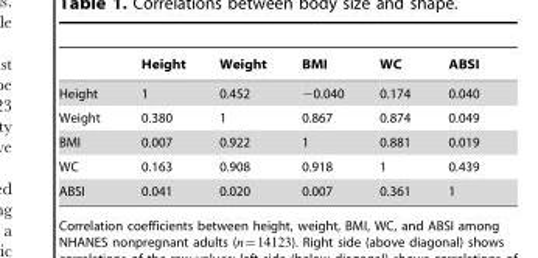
<table><thead><tr><td></td><td>Height</td><td>Weight</td><td>BMI</td><td>WC</td><td>ABSI</td></tr></thead><tbody><tr><td>Height</td><td>1</td><td>0.452</td><td>−0.040</td><td>0.174</td><td>0.040</td></tr><tr><td>Weight</td><td>0.380</td><td>1</td><td>0.867</td><td>0.874</td><td>0.049</td></tr><tr><td>BMI</td><td>0.007</td><td>0.922</td><td>1</td><td>0.881</td><td>0.019</td></tr><tr><td>WC</td><td>0.163</td><td>0.908</td><td>0.918</td><td>1</td><td>0.439</td></tr><tr><td>ABSI</td><td>0.041</td><td>0.020</td><td>0.007</td><td>0.361</td><td>1</td></tr></tbody></table>